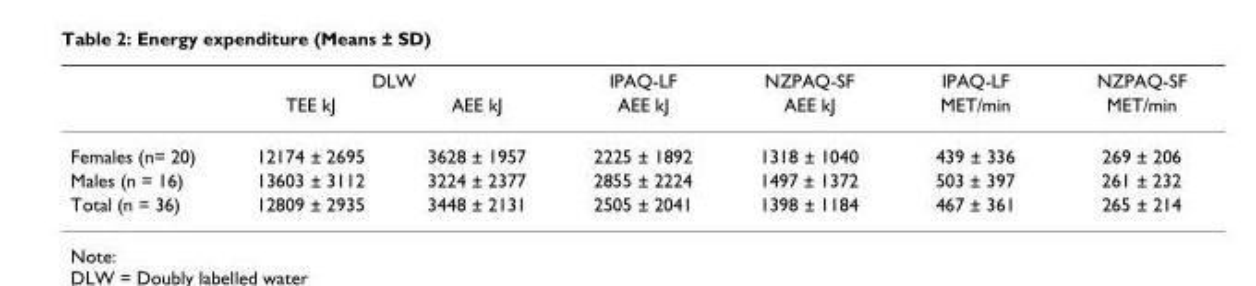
<table><thead><tr><td rowspan="2"></td><td colspan="2">DLW</td><td rowspan="2">IPAQ-LF AEE kJ</td><td rowspan="2">NZPAQ-SF AEE kJ</td><td rowspan="2">IPAQ-LF MET/min</td><td rowspan="2">NZPAQ-SF MET/min</td></tr><tr><td>TEE kJ</td><td>AEE kJ</td></tr></thead><tbody><tr><td>Females (n= 20)</td><td>12174 ± 2695</td><td>3628 ± 1957</td><td>2225 ± 1892</td><td>1318 ± 1040</td><td>439 ± 336</td><td>269 ± 206</td></tr><tr><td>Males (n = 16)</td><td>13603 ± 3112</td><td>3224 ± 2377</td><td>2855 ± 2224</td><td>1497 ± 1372</td><td>503 ± 397</td><td>261 ± 232</td></tr><tr><td>Total (n = 36)</td><td>12809 ± 2935</td><td>3448 ± 2131</td><td>2505 ± 2041</td><td>1398 ± 1184</td><td>467 ± 361</td><td>265 ± 214</td></tr></tbody></table>